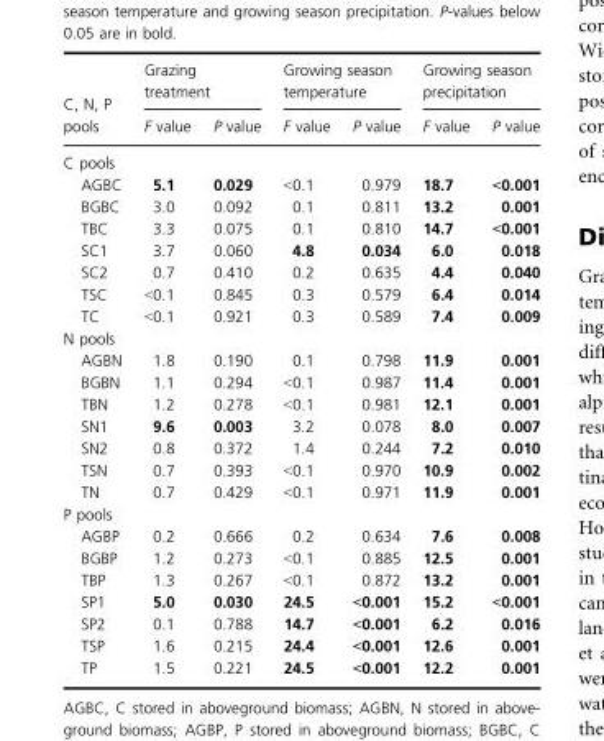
<table><thead><tr><td rowspan="2">C, N, P pools</td><td colspan="2">Grazing treatment</td><td colspan="2">Growing season temperature</td><td colspan="2">Growing season precipitation</td></tr><tr><td>F value</td><td>P value</td><td>F value</td><td>P value</td><td>F value</td><td>P value</td></tr></thead><tbody><tr><td colspan="7">C pools</td></tr><tr><td>AGBC</td><td>5.1</td><td>0.029</td><td>&lt;0.1</td><td>0.979</td><td>18.7</td><td>&lt;0.001</td></tr><tr><td>BGBC</td><td>3.0</td><td>0.092</td><td>0.1</td><td>0.811</td><td>13.2</td><td>0.001</td></tr><tr><td>TBC</td><td>3.3</td><td>0.075</td><td>0.1</td><td>0.810</td><td>14.7</td><td>&lt;0.001</td></tr><tr><td>SC1</td><td>3.7</td><td>0.060</td><td>4.8</td><td>0.034</td><td>6.0</td><td>0.018</td></tr><tr><td>SC2</td><td>0.7</td><td>0.410</td><td>0.2</td><td>0.635</td><td>4.4</td><td>0.040</td></tr><tr><td>TSC</td><td>&lt;0.1</td><td>0.845</td><td>0.3</td><td>0.579</td><td>6.4</td><td>0.014</td></tr><tr><td>TC</td><td>&lt;0.1</td><td>0.921</td><td>0.3</td><td>0.589</td><td>7.4</td><td>0.009</td></tr><tr><td colspan="7">N pools</td></tr><tr><td>AGBN</td><td>1.8</td><td>0.190</td><td>0.1</td><td>0.798</td><td>11.9</td><td>0.001</td></tr><tr><td>BGBN</td><td>1.1</td><td>0.294</td><td>&lt;0.1</td><td>0.987</td><td>11.4</td><td>0.001</td></tr><tr><td>TBN</td><td>1.2</td><td>0.278</td><td>&lt;0.1</td><td>0.981</td><td>12.1</td><td>0.001</td></tr><tr><td>SN1</td><td>9.6</td><td>0.003</td><td>3.2</td><td>0.078</td><td>8.0</td><td>0.007</td></tr><tr><td>SN2</td><td>0.8</td><td>0.372</td><td>1.4</td><td>0.244</td><td>7.2</td><td>0.010</td></tr><tr><td>TSN</td><td>0.7</td><td>0.393</td><td>&lt;0.1</td><td>0.970</td><td>10.9</td><td>0.002</td></tr><tr><td>TN</td><td>0.7</td><td>0.429</td><td>&lt;0.1</td><td>0.971</td><td>11.9</td><td>0.001</td></tr><tr><td colspan="7">P pools</td></tr><tr><td>AGBP</td><td>0.2</td><td>0.666</td><td>0.2</td><td>0.634</td><td>7.6</td><td>0.008</td></tr><tr><td>BGBP</td><td>1.2</td><td>0.273</td><td>&lt;0.1</td><td>0.885</td><td>12.5</td><td>0.001</td></tr><tr><td>TBP</td><td>1.3</td><td>0.267</td><td>&lt;0.1</td><td>0.872</td><td>13.2</td><td>0.001</td></tr><tr><td>SP1</td><td>5.0</td><td>0.030</td><td>24.5</td><td>&lt;0.001</td><td>15.2</td><td>&lt;0.001</td></tr><tr><td>SP2</td><td>0.1</td><td>0.788</td><td>14.7</td><td>&lt;0.001</td><td>6.2</td><td>0.016</td></tr><tr><td>TSP</td><td>1.6</td><td>0.215</td><td>24.4</td><td>&lt;0.001</td><td>12.6</td><td>0.001</td></tr><tr><td>TP</td><td>1.5</td><td>0.221</td><td>24.5</td><td>&lt;0.001</td><td>12.2</td><td>0.001</td></tr></tbody></table>